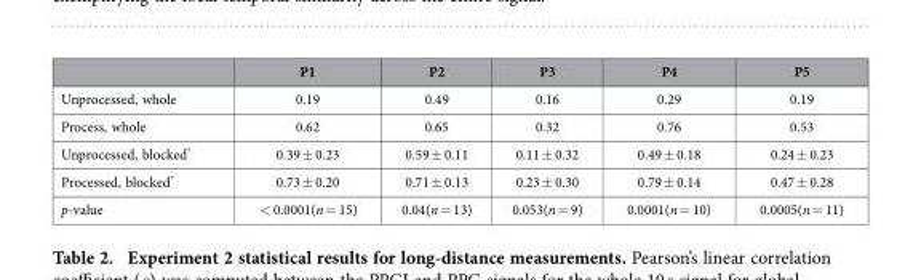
<table><thead><tr><td></td><td>P1</td><td>P2</td><td>P3</td><td>P4</td><td>P5</td></tr></thead><tbody><tr><td>Unprocessed, whole</td><td>0.19</td><td>0.49</td><td>0.16</td><td>0.29</td><td>0.19</td></tr><tr><td>Process, whole</td><td>0.62</td><td>0.65</td><td>0.32</td><td>0.76</td><td>0.53</td></tr><tr><td>Unprocessed, blocked*</td><td>0.39 ± 0.23</td><td>0.59 ± 0.11</td><td>0.11 ± 0.32</td><td>0.49 ± 0.18</td><td>0.24 ± 0.23</td></tr><tr><td>Processed, blocked*</td><td>0.73 ± 0.20</td><td>0.71 ± 0.13</td><td>0.23 ± 0.30</td><td>0.79 ± 0.14</td><td>0.47 ± 0.28</td></tr><tr><td>p-value</td><td>&lt; 0.0001(n = 15)</td><td>0.04(n = 13)</td><td>0.053(n = 9)</td><td>0.0001(n = 10)</td><td>0.0005(n = 11)</td></tr></tbody></table>